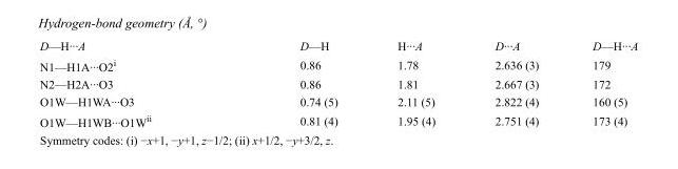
<table><tbody><tr><td>D—H···A</td><td>D—H</td><td>H···A</td><td>D···A</td><td>D—H···A</td></tr><tr><td>N1—H1A···O2<sup>i</sup></td><td>0.86</td><td>1.78</td><td>2.636 (3)</td><td>179</td></tr><tr><td>N2—H2A···O3</td><td>0.86</td><td>1.81</td><td>2.667 (3)</td><td>172</td></tr><tr><td>O1W—H1WA···O3</td><td>0.74 (5)</td><td>2.11 (5)</td><td>2.822 (4)</td><td>160 (5)</td></tr><tr><td>O1W—H1WB···O1W<sup>ii</sup></td><td>0.81 (4)</td><td>1.95 (4)</td><td>2.751 (4)</td><td>173 (4)</td></tr></tbody></table>